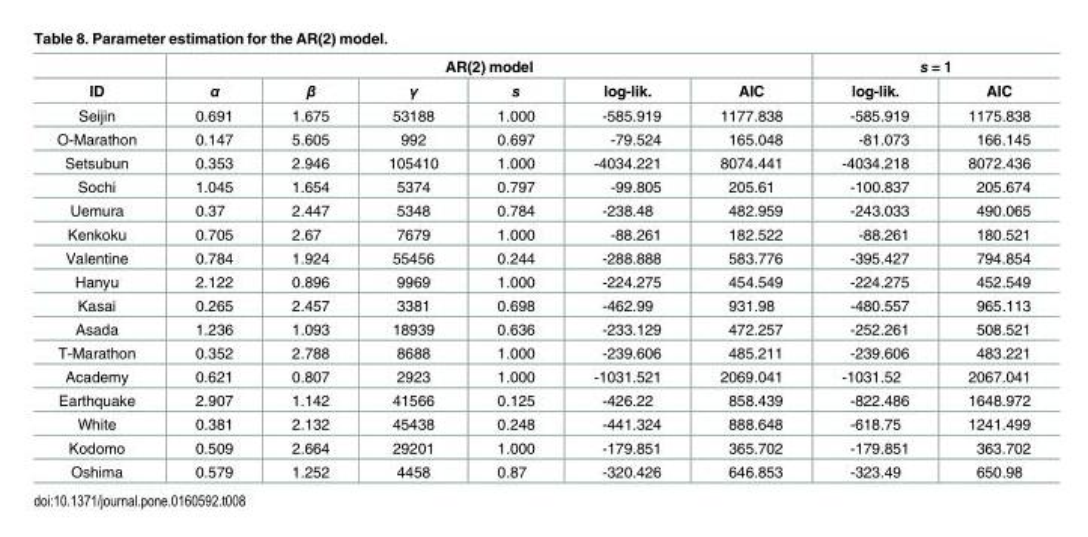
<table><thead><tr><td rowspan="2">ID</td><td colspan="6">AR(2) model</td><td colspan="2">s = 1</td></tr><tr><td>α</td><td>β</td><td>γ</td><td>s</td><td>log-lik.</td><td>AIC</td><td>log-lik.</td><td>AIC</td></tr></thead><tbody><tr><td>Seijin</td><td>0.691</td><td>1.675</td><td>53188</td><td>1.000</td><td>-585.919</td><td>1177.838</td><td>-585.919</td><td>1175.838</td></tr><tr><td>O-Marathon</td><td>0.147</td><td>5.605</td><td>992</td><td>0.697</td><td>-79.524</td><td>165.048</td><td>-81.073</td><td>166.145</td></tr><tr><td>Setsubun</td><td>0.353</td><td>2.946</td><td>105410</td><td>1.000</td><td>-4034.221</td><td>8074.441</td><td>-4034.218</td><td>8072.436</td></tr><tr><td>Sochi</td><td>1.045</td><td>1.654</td><td>5374</td><td>0.797</td><td>-99.805</td><td>205.61</td><td>-100.837</td><td>205.674</td></tr><tr><td>Uemura</td><td>0.37</td><td>2.447</td><td>5348</td><td>0.784</td><td>-238.48</td><td>482.959</td><td>-243.033</td><td>490.065</td></tr><tr><td>Kenkoku</td><td>0.705</td><td>2.67</td><td>7679</td><td>1.000</td><td>-88.261</td><td>182.522</td><td>-88.261</td><td>180.521</td></tr><tr><td>Valentine</td><td>0.784</td><td>1.924</td><td>55456</td><td>0.244</td><td>-288.888</td><td>583.776</td><td>-395.427</td><td>794.854</td></tr><tr><td>Hanyu</td><td>2.122</td><td>0.896</td><td>9969</td><td>1.000</td><td>-224.275</td><td>454.549</td><td>-224.275</td><td>452.549</td></tr><tr><td>Kasai</td><td>0.265</td><td>2.457</td><td>3381</td><td>0.698</td><td>-462.99</td><td>931.98</td><td>-480.557</td><td>965.113</td></tr><tr><td>Asada</td><td>1.236</td><td>1.093</td><td>18939</td><td>0.636</td><td>-233.129</td><td>472.257</td><td>-252.261</td><td>508.521</td></tr><tr><td>T-Marathon</td><td>0.352</td><td>2.788</td><td>8688</td><td>1.000</td><td>-239.606</td><td>485.211</td><td>-239.606</td><td>483.221</td></tr><tr><td>Academy</td><td>0.621</td><td>0.807</td><td>2923</td><td>1.000</td><td>-1031.521</td><td>2069.041</td><td>-1031.52</td><td>2067.041</td></tr><tr><td>Earthquake</td><td>2.907</td><td>1.142</td><td>41566</td><td>0.125</td><td>-426.22</td><td>858.439</td><td>-822.486</td><td>1648.972</td></tr><tr><td>White</td><td>0.381</td><td>2.132</td><td>45438</td><td>0.248</td><td>-441.324</td><td>888.648</td><td>-618.75</td><td>1241.499</td></tr><tr><td>Kodomo</td><td>0.509</td><td>2.664</td><td>29201</td><td>1.000</td><td>-179.851</td><td>365.702</td><td>-179.851</td><td>363.702</td></tr><tr><td>Oshima</td><td>0.579</td><td>1.252</td><td>4458</td><td>0.87</td><td>-320.426</td><td>646.853</td><td>-323.49</td><td>650.98</td></tr></tbody></table>